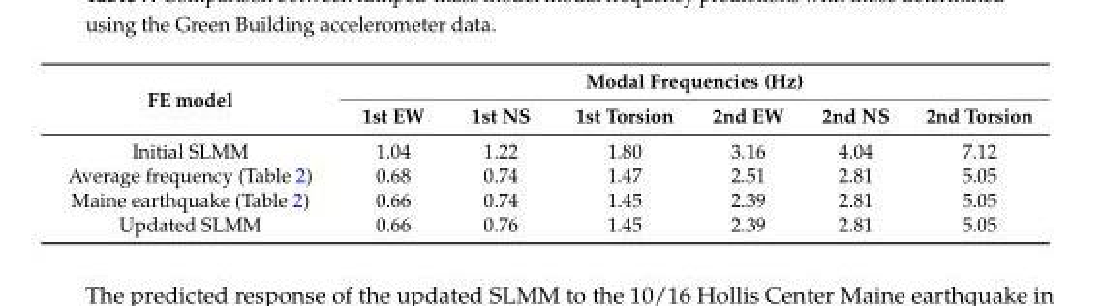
<table><thead><tr><td rowspan="2">FE model</td><td colspan="6">Modal Frequencies (Hz)</td></tr><tr><td>1st EW</td><td>1st NS</td><td>1st Torsion</td><td>2nd EW</td><td>2nd NS</td><td>2nd Torsion</td></tr></thead><tbody><tr><td>Initial SLMM</td><td>1.04</td><td>1.22</td><td>1.80</td><td>3.16</td><td>4.04</td><td>7.12</td></tr><tr><td>Average frequency (Table 2)</td><td>0.68</td><td>0.74</td><td>1.47</td><td>2.51</td><td>2.81</td><td>5.05</td></tr><tr><td>Maine earthquake (Table 2)</td><td>0.66</td><td>0.74</td><td>1.45</td><td>2.39</td><td>2.81</td><td>5.05</td></tr><tr><td>Updated SLMM</td><td>0.66</td><td>0.76</td><td>1.45</td><td>2.39</td><td>2.81</td><td>5.05</td></tr></tbody></table>